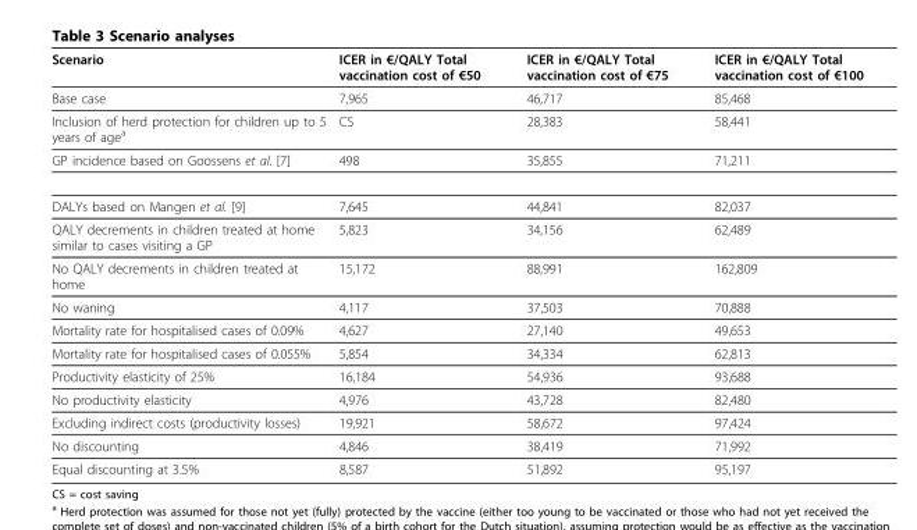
<table><thead><tr><td>Scenario</td><td>ICER in €/QALY Total vaccination cost of €50</td><td>ICER in €/QALY Total vaccination cost of €75</td><td>ICER in €/QALY Total vaccination cost of €100</td></tr></thead><tbody><tr><td>Base case</td><td>7,965</td><td>46,717</td><td>85,468</td></tr><tr><td>Inclusion of herd protection for children up to 5 years of agea</td><td>CS</td><td>28,383</td><td>58,441</td></tr><tr><td>GP incidence based on Goossens et al. [7]</td><td>498</td><td>35,855</td><td>71,211</td></tr><tr><td>DALYs based on Mangen et al. [9]</td><td>7,645</td><td>44,841</td><td>82,037</td></tr><tr><td>QALY decrements in children treated at home similar to cases visiting a GP</td><td>5,823</td><td>34,156</td><td>62,489</td></tr><tr><td>No QALY decrements in children treated at home</td><td>15,172</td><td>88,991</td><td>162,809</td></tr><tr><td>No waning</td><td>4,117</td><td>37,503</td><td>70,888</td></tr><tr><td>Mortality rate for hospitalised cases of 0.09%</td><td>4,627</td><td>27,140</td><td>49,653</td></tr><tr><td>Mortality rate for hospitalised cases of 0.055%</td><td>5,854</td><td>34,334</td><td>62,813</td></tr><tr><td>Productivity elasticity of 25%</td><td>16,184</td><td>54,936</td><td>93,688</td></tr><tr><td>No productivity elasticity</td><td>4,976</td><td>43,728</td><td>82,480</td></tr><tr><td>Excluding indirect costs (productivity losses)</td><td>19,921</td><td>58,672</td><td>97,424</td></tr><tr><td>No discounting</td><td>4,846</td><td>38,419</td><td>71,992</td></tr><tr><td>Equal discounting at 3.5%</td><td>8,587</td><td>51,892</td><td>95,197</td></tr></tbody></table>